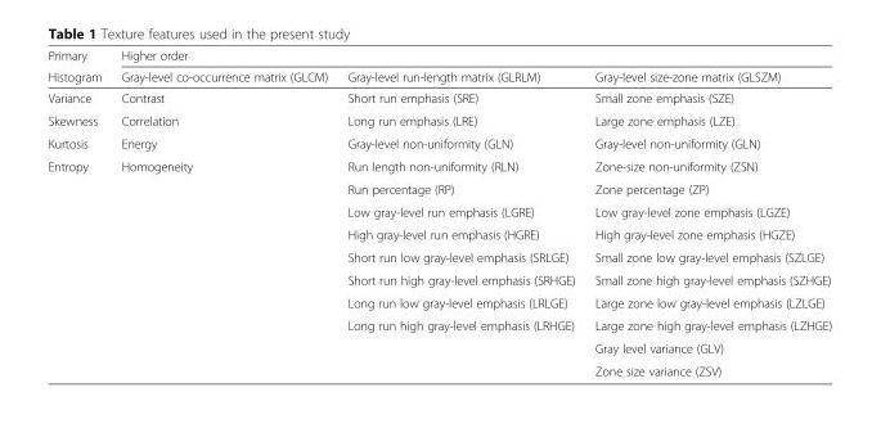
<table><thead><tr><td rowspan="2">Primary Histogram</td><td colspan="3">Higher order</td></tr><tr><td>Gray-level co-occurrence matrix (GLCM)</td><td>Gray-level run-length matrix (GLRLM)</td><td>Gray-level size-zone matrix (GLSZM)</td></tr></thead><tbody><tr><td>Variance</td><td>Contrast</td><td>Short run emphasis (SRE)</td><td>Small zone emphasis (SZE)</td></tr><tr><td>Skewness</td><td>Correlation</td><td>Long run emphasis (LRE)</td><td>Large zone emphasis (LZE)</td></tr><tr><td>Kurtosis</td><td>Energy</td><td>Gray-level non-uniformity (GLN)</td><td>Gray-level non-uniformity (GLN)</td></tr><tr><td rowspan="10">Entropy</td><td>Homogeneity</td><td>Run length non-uniformity (RLN)</td><td>Zone-size non-uniformity (ZSN)</td></tr><tr><td></td><td>Run percentage (RP)</td><td>Zone percentage (ZP)</td></tr><tr><td></td><td>Low gray-level run emphasis (LGRE)</td><td>Low gray-level zone emphasis (LGZE)</td></tr><tr><td></td><td>High gray-level run emphasis (HGRE)</td><td>High gray-level zone emphasis (HGZE)</td></tr><tr><td></td><td>Short run low gray-level emphasis (SRLGE)</td><td>Small zone low gray-level emphasis (SZLGE)</td></tr><tr><td></td><td>Short run high gray-level emphasis (SRHGE)</td><td>Small zone high gray-level emphasis (SZHGE)</td></tr><tr><td></td><td>Long run low gray-level emphasis (LRLGE)</td><td>Large zone low gray-level emphasis (LZLGE)</td></tr><tr><td></td><td>Long run high gray-level emphasis (LRHGE)</td><td>Large zone high gray-level emphasis (LZHGE)</td></tr><tr><td></td><td></td><td>Gray level variance (GLV)</td></tr><tr><td></td><td></td><td>Zone size variance (ZSV)</td></tr></tbody></table>